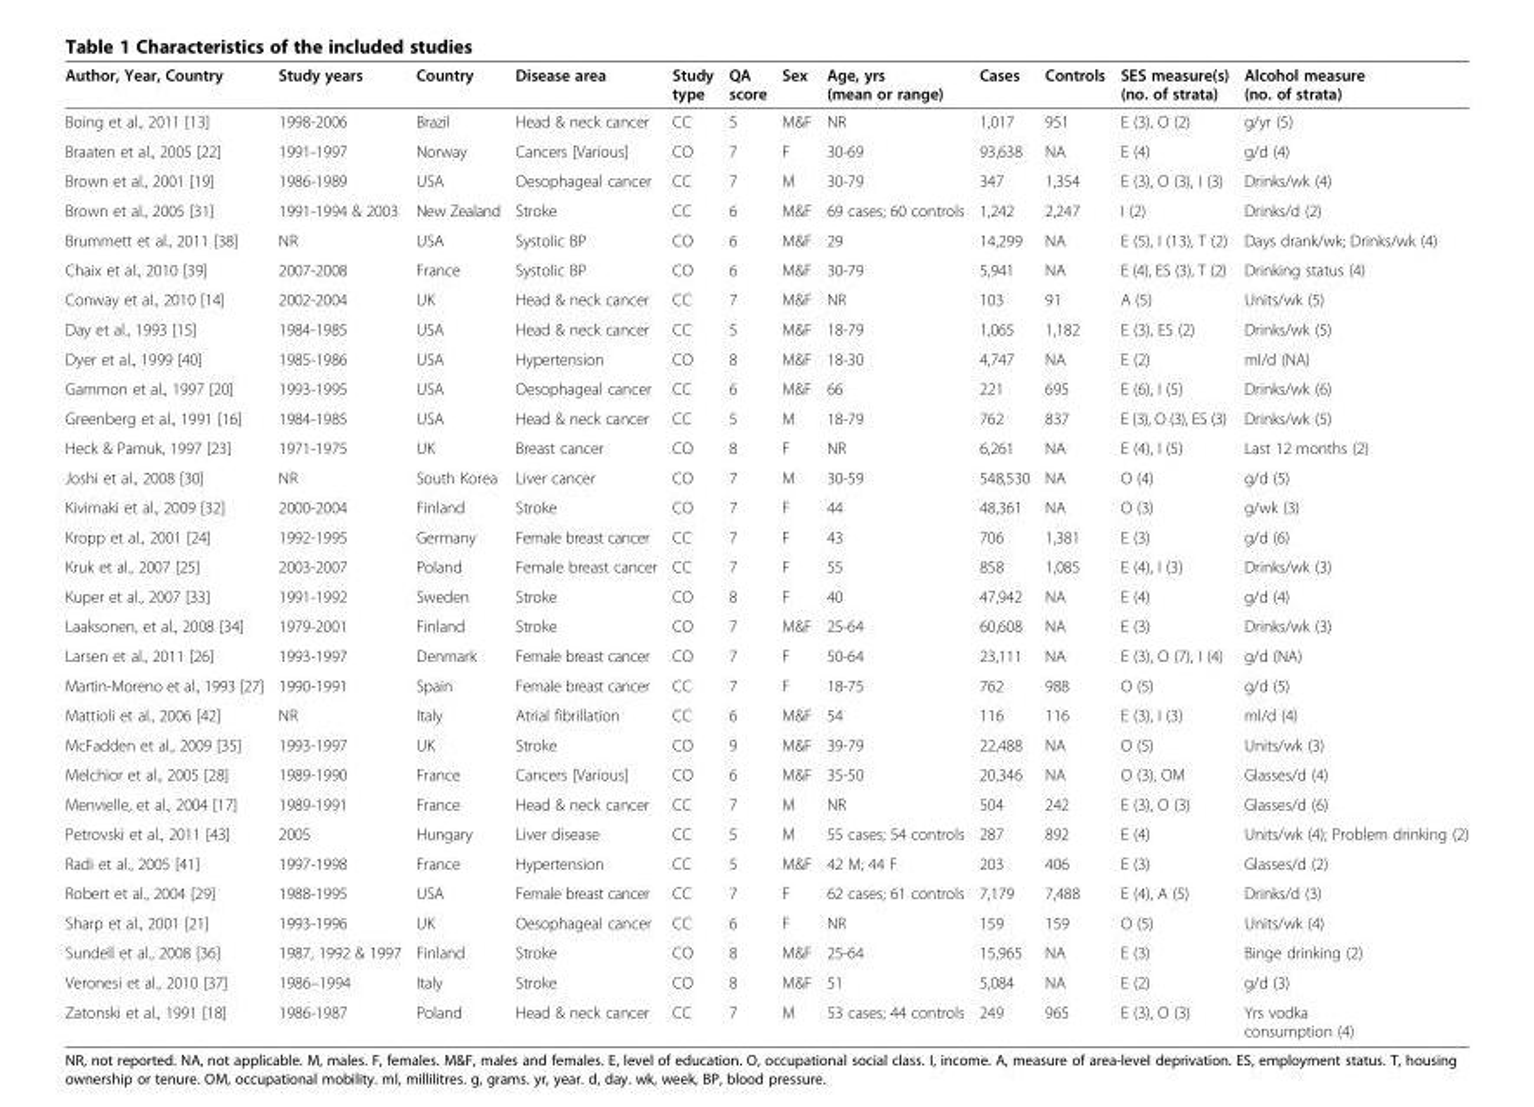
<table><thead><tr><td>Author, Year, Country</td><td>Study years</td><td>Country</td><td>Disease area</td><td>Study type</td><td>QA score</td><td>Sex</td><td>Age, yrs (mean or range)</td><td>Cases</td><td>Controls</td><td>SES measure(s) (no. of strata)</td><td>Alcohol measure (no. of strata)</td></tr></thead><tbody><tr><td>Boing et al., 2011 [13]</td><td>1998-2006</td><td>Brazil</td><td>Head &amp; neck cancer</td><td>CC</td><td>5</td><td>M&amp;F</td><td>NR</td><td>1,017</td><td>951</td><td>E (3), O (2)</td><td>g/yr (5)</td></tr><tr><td>Braaten et al., 2005 [22]</td><td>1991-1997</td><td>Norway</td><td>Cancers [Various]</td><td>CO</td><td>7</td><td>F</td><td>30-69</td><td>93,638</td><td>NA</td><td>E (4)</td><td>g/d (4)</td></tr><tr><td>Brown et al., 2001 [19]</td><td>1986-1989</td><td>USA</td><td>Oesophageal cancer</td><td>CC</td><td>7</td><td>M</td><td>30-79</td><td>347</td><td>1,354</td><td>E (3), O (3), I (3)</td><td>Drinks/wk (4)</td></tr><tr><td>Brown et al., 2005 [31]</td><td>1991-1994 &amp; 2003</td><td>New Zealand</td><td>Stroke</td><td>CC</td><td>6</td><td>M&amp;F</td><td>69 cases; 60 controls</td><td>1,242</td><td>2,247</td><td>I (2)</td><td>Drinks/d (2)</td></tr><tr><td>Brummett et al., 2011 [38]</td><td>NR</td><td>USA</td><td>Systolic BP</td><td>CO</td><td>6</td><td>M&amp;F</td><td>29</td><td>14,299</td><td>NA</td><td>E (5), I (13), T (2)</td><td>Days drank/wk; Drinks/wk (4)</td></tr><tr><td>Chaix et al., 2010 [39]</td><td>2007-2008</td><td>France</td><td>Systolic BP</td><td>CO</td><td>6</td><td>M&amp;F</td><td>30-79</td><td>5,941</td><td>NA</td><td>E (4), ES (3), T (2)</td><td>Drinking status (4)</td></tr><tr><td>Conway et al., 2010 [14]</td><td>2002-2004</td><td>UK</td><td>Head &amp; neck cancer</td><td>CC</td><td>7</td><td>M&amp;F</td><td>NR</td><td>103</td><td>91</td><td>A (5)</td><td>Units/wk (5)</td></tr><tr><td>Day et al., 1993 [15]</td><td>1984-1985</td><td>USA</td><td>Head &amp; neck cancer</td><td>CC</td><td>5</td><td>M&amp;F</td><td>18-79</td><td>1,065</td><td>1,182</td><td>E (3), ES (2)</td><td>Drinks/wk (5)</td></tr><tr><td>Dyer et al., 1999 [40]</td><td>1985-1986</td><td>USA</td><td>Hypertension</td><td>CO</td><td>8</td><td>M&amp;F</td><td>18-30</td><td>4,747</td><td>NA</td><td>E (2)</td><td>ml/d (NA)</td></tr><tr><td>Gammon et al., 1997 [20]</td><td>1993-1995</td><td>USA</td><td>Oesophageal cancer</td><td>CC</td><td>6</td><td>M&amp;F</td><td>66</td><td>221</td><td>695</td><td>E (6), I (5)</td><td>Drinks/wk (6)</td></tr><tr><td>Greenberg et al., 1991 [16]</td><td>1984-1985</td><td>USA</td><td>Head &amp; neck cancer</td><td>CC</td><td>5</td><td>M</td><td>18-79</td><td>762</td><td>837</td><td>E (3), O (3), ES (3)</td><td>Drinks/wk (5)</td></tr><tr><td>Heck &amp; Pamuk, 1997 [23]</td><td>1971-1975</td><td>UK</td><td>Breast cancer</td><td>CO</td><td>8</td><td>F</td><td>NR</td><td>6,261</td><td>NA</td><td>E (4), I (5)</td><td>Last 12 months (2)</td></tr><tr><td>Joshi et al., 2008 [30]</td><td>NR</td><td>South Korea</td><td>Liver cancer</td><td>CO</td><td>7</td><td>M</td><td>30-59</td><td>548,530</td><td>NA</td><td>O (4)</td><td>g/d (5)</td></tr><tr><td>Kivimaki et al., 2009 [32]</td><td>2000-2004</td><td>Finland</td><td>Stroke</td><td>CO</td><td>7</td><td>F</td><td>44</td><td>48,361</td><td>NA</td><td>O (3)</td><td>g/wk (3)</td></tr><tr><td>Kropp et al., 2001 [24]</td><td>1992-1995</td><td>Germany</td><td>Female breast cancer</td><td>CC</td><td>7</td><td>F</td><td>43</td><td>706</td><td>1,381</td><td>E (3)</td><td>g/d (6)</td></tr><tr><td>Kruk et al., 2007 [25]</td><td>2003-2007</td><td>Poland</td><td>Female breast cancer</td><td>CC</td><td>7</td><td>F</td><td>55</td><td>858</td><td>1,085</td><td>E (4), I (3)</td><td>Drinks/wk (3)</td></tr><tr><td>Kuper et al., 2007 [33]</td><td>1991-1992</td><td>Sweden</td><td>Stroke</td><td>CO</td><td>8</td><td>F</td><td>40</td><td>47,942</td><td>NA</td><td>E (4)</td><td>g/d (4)</td></tr><tr><td>Laaksonen, et al., 2008 [34]</td><td>1979-2001</td><td>Finland</td><td>Stroke</td><td>CO</td><td>7</td><td>M&amp;F</td><td>25-64</td><td>60,608</td><td>NA</td><td>E (3)</td><td>Drinks/wk (3)</td></tr><tr><td>Larsen et al., 2011 [26]</td><td>1993-1997</td><td>Denmark</td><td>Female breast cancer</td><td>CO</td><td>7</td><td>F</td><td>50-64</td><td>23,111</td><td>NA</td><td>E (3), O (7), I (4)</td><td>g/d (NA)</td></tr><tr><td>Martin-Moreno et al., 1993 [27]</td><td>1990-1991</td><td>Spain</td><td>Female breast cancer</td><td>CC</td><td>7</td><td>F</td><td>18-75</td><td>762</td><td>988</td><td>O (5)</td><td>g/d (5)</td></tr><tr><td>Mattioli et al., 2006 [42]</td><td>NR</td><td>Italy</td><td>Atrial fibrillation</td><td>CC</td><td>6</td><td>M&amp;F</td><td>54</td><td>116</td><td>116</td><td>E (3), I (3)</td><td>ml/d (4)</td></tr><tr><td>McFadden et al., 2009 [35]</td><td>1993-1997</td><td>UK</td><td>Stroke</td><td>CO</td><td>9</td><td>M&amp;F</td><td>39-79</td><td>22,488</td><td>NA</td><td>O (5)</td><td>Units/wk (3)</td></tr><tr><td>Melchior et al., 2005 [28]</td><td>1989-1990</td><td>France</td><td>Cancers [Various]</td><td>CO</td><td>6</td><td>M&amp;F</td><td>35-50</td><td>20,346</td><td>NA</td><td>O (3), OM</td><td>Glasses/d (4)</td></tr><tr><td>Menvielle, et al., 2004 [17]</td><td>1989-1991</td><td>France</td><td>Head &amp; neck cancer</td><td>CC</td><td>7</td><td>M</td><td>NR</td><td>504</td><td>242</td><td>E (3), O (3)</td><td>Glasses/d (6)</td></tr><tr><td>Petrovski et al., 2011 [43]</td><td>2005</td><td>Hungary</td><td>Liver disease</td><td>CC</td><td>5</td><td>M</td><td>55 cases; 54 controls</td><td>287</td><td>892</td><td>E (4)</td><td>Units/wk (4); Problem drinking (2)</td></tr><tr><td>Radi et al., 2005 [41]</td><td>1997-1998</td><td>France</td><td>Hypertension</td><td>CC</td><td>5</td><td>M&amp;F</td><td>42 M; 44 F</td><td>203</td><td>406</td><td>E (3)</td><td>Glasses/d (2)</td></tr><tr><td>Robert et al., 2004 [29]</td><td>1988-1995</td><td>USA</td><td>Female breast cancer</td><td>CC</td><td>7</td><td>F</td><td>62 cases; 61 controls</td><td>7,179</td><td>7,488</td><td>E (4), A (5)</td><td>Drinks/d (3)</td></tr><tr><td>Sharp et al., 2001 [21]</td><td>1993-1996</td><td>UK</td><td>Oesophageal cancer</td><td>CC</td><td>6</td><td>F</td><td>NR</td><td>159</td><td>159</td><td>O (5)</td><td>Units/wk (4)</td></tr><tr><td>Sundell et al., 2008 [36]</td><td>1987, 1992 &amp; 1997</td><td>Finland</td><td>Stroke</td><td>CO</td><td>8</td><td>M&amp;F</td><td>25-64</td><td>15,965</td><td>NA</td><td>E (3)</td><td>Binge drinking (2)</td></tr><tr><td>Veronesi et al., 2010 [37]</td><td>1986–1994</td><td>Italy</td><td>Stroke</td><td>CO</td><td>8</td><td>M&amp;F</td><td>51</td><td>5,084</td><td>NA</td><td>E (2)</td><td>g/d (3)</td></tr><tr><td>Zatonski et al., 1991 [18]</td><td>1986-1987</td><td>Poland</td><td>Head &amp; neck cancer</td><td>CC</td><td>7</td><td>M</td><td>53 cases; 44 controls</td><td>249</td><td>965</td><td>E (3), O (3)</td><td>Yrs vodka consumption (4)</td></tr></tbody></table>